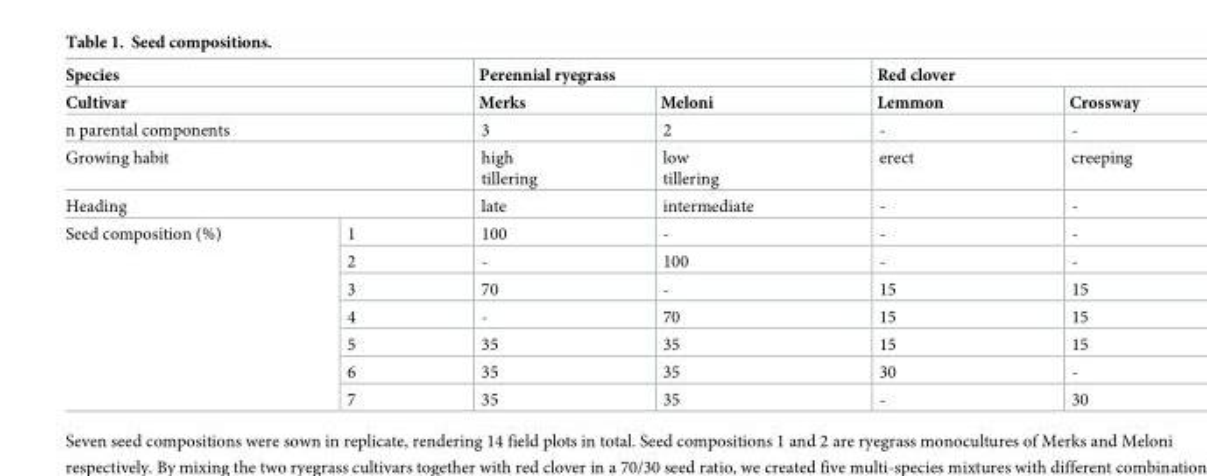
<table><thead><tr><td rowspan="2" colspan="2">Species Cultivar</td><td colspan="2">Perennial ryegrass</td><td colspan="2">Red clover</td></tr><tr><td>Merks</td><td>Meloni</td><td>Lemmon</td><td>Crossway</td></tr></thead><tbody><tr><td colspan="2">n parental components</td><td>3</td><td>2</td><td>-</td><td>-</td></tr><tr><td colspan="2">Growing habit</td><td>high tillering</td><td>low tillering</td><td>erect</td><td>creeping</td></tr><tr><td colspan="2">Heading</td><td>late</td><td>intermediate</td><td>-</td><td>-</td></tr><tr><td rowspan="7">Seed composition (%)</td><td>1</td><td>100</td><td>-</td><td>-</td><td>-</td></tr><tr><td>2</td><td>-</td><td>100</td><td>-</td><td>-</td></tr><tr><td>3</td><td>70</td><td>-</td><td>15</td><td>15</td></tr><tr><td>4</td><td>-</td><td>70</td><td>15</td><td>15</td></tr><tr><td>5</td><td>35</td><td>35</td><td>15</td><td>15</td></tr><tr><td>6</td><td>35</td><td>35</td><td>30</td><td>-</td></tr><tr><td>7</td><td>35</td><td>35</td><td>-</td><td>30</td></tr></tbody></table>